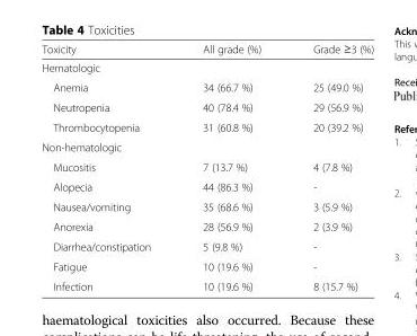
<table><thead><tr><td>Toxicity</td><td>All grade (%)</td><td>Grade ≥3 (%)</td></tr></thead><tbody><tr><td colspan="3">Hematologic</td></tr><tr><td>Anemia</td><td>34 (66.7 %)</td><td>25 (49.0 %)</td></tr><tr><td>Neutropenia</td><td>40 (78.4 %)</td><td>29 (56.9 %)</td></tr><tr><td>Thrombocytopenia</td><td>31 (60.8 %)</td><td>20 (39.2 %)</td></tr><tr><td colspan="3">Non-hematologic</td></tr><tr><td>Mucositis</td><td>7 (13.7 %)</td><td>4 (7.8 %)</td></tr><tr><td>Alopecia</td><td>44 (86.3 %)</td><td>-</td></tr><tr><td>Nausea/vomiting</td><td>35 (68.6 %)</td><td>3 (5.9 %)</td></tr><tr><td>Anorexia</td><td>28 (56.9 %)</td><td>2 (3.9 %)</td></tr><tr><td>Diarrhea/constipation</td><td>5 (9.8 %)</td><td>-</td></tr><tr><td>Fatigue</td><td>10 (19.6 %)</td><td>-</td></tr><tr><td>Infection</td><td>10 (19.6 %)</td><td>8 (15.7 %)</td></tr></tbody></table>